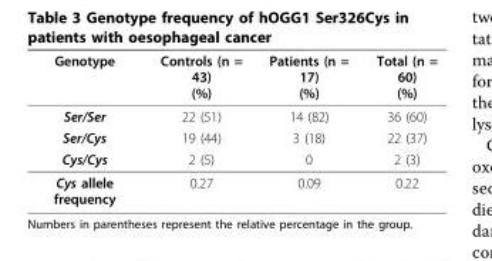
<table><thead><tr><td>Genotype</td><td>Controls (n = 43) (%)</td><td>Patients (n = 17) (%)</td><td>Total (n = 60) (%)</td></tr></thead><tbody><tr><td>Ser/Ser</td><td>22 (51)</td><td>14 (82)</td><td>36 (60)</td></tr><tr><td>Ser/Cys</td><td>19 (44)</td><td>3 (18)</td><td>22 (37)</td></tr><tr><td>Cys/Cys</td><td>2 (5)</td><td>0</td><td>2 (3)</td></tr><tr><td>Cys allele frequency</td><td>0.27</td><td>0.09</td><td>0.22</td></tr></tbody></table>